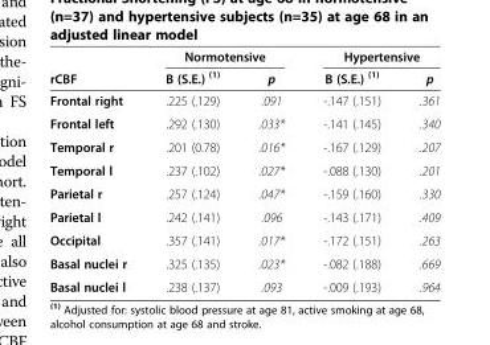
<table><thead><tr><td rowspan="2">rCBF</td><td colspan="2">Normotensive</td><td colspan="2">Hypertensive</td></tr><tr><td>B (S.E.) <sup>(1)</sup></td><td>p</td><td>B (S.E.) <sup>(1)</sup></td><td>p</td></tr></thead><tbody><tr><td>Frontal right</td><td>.225 (.129)</td><td>.091</td><td>-.147 (.151)</td><td>.361</td></tr><tr><td>Frontal left</td><td>.292 (.130)</td><td>.033*</td><td>-.141 (.145)</td><td>.340</td></tr><tr><td>Temporal r</td><td>.201 (0.78)</td><td>.016*</td><td>-.167 (.129)</td><td>.207</td></tr><tr><td>Temporal l</td><td>.237 (.102)</td><td>.027*</td><td>-.088 (.130)</td><td>.201</td></tr><tr><td>Parietal r</td><td>.257 (.124)</td><td>.047*</td><td>-.159 (.160)</td><td>.330</td></tr><tr><td>Parietal l</td><td>.242 (.141)</td><td>.096</td><td>-.143 (.171)</td><td>.409</td></tr><tr><td>Occipital</td><td>.357 (.141)</td><td>.017*</td><td>-.172 (.151)</td><td>.263</td></tr><tr><td>Basal nuclei r</td><td>.325 (.135)</td><td>.023*</td><td>-.082 (.188)</td><td>.669</td></tr><tr><td>Basal nuclei l</td><td>.238 (.137)</td><td>.093</td><td>-.009 (.193)</td><td>.964</td></tr></tbody></table>